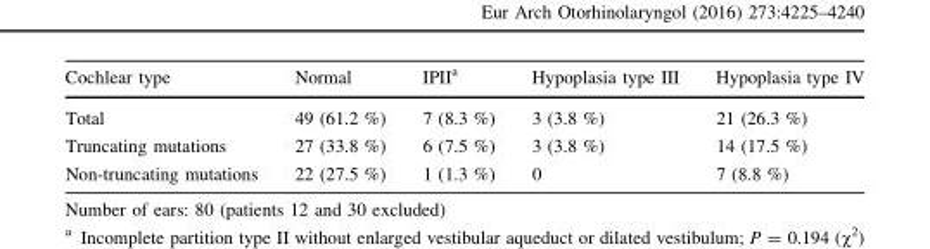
<table><thead><tr><td>Cochlear type</td><td>Normal</td><td>IPII<sup>a</sup></td><td>Hypoplasia type III</td><td>Hypoplasia type IV</td></tr></thead><tbody><tr><td>Total</td><td>49 (61.2 %)</td><td>7 (8.3 %)</td><td>3 (3.8 %)</td><td>21 (26.3 %)</td></tr><tr><td>Truncating mutations</td><td>27 (33.8 %)</td><td>6 (7.5 %)</td><td>3 (3.8 %)</td><td>14 (17.5 %)</td></tr><tr><td>Non-truncating mutations</td><td>22 (27.5 %)</td><td>1 (1.3 %)</td><td>0</td><td>7 (8.8 %)</td></tr></tbody></table>